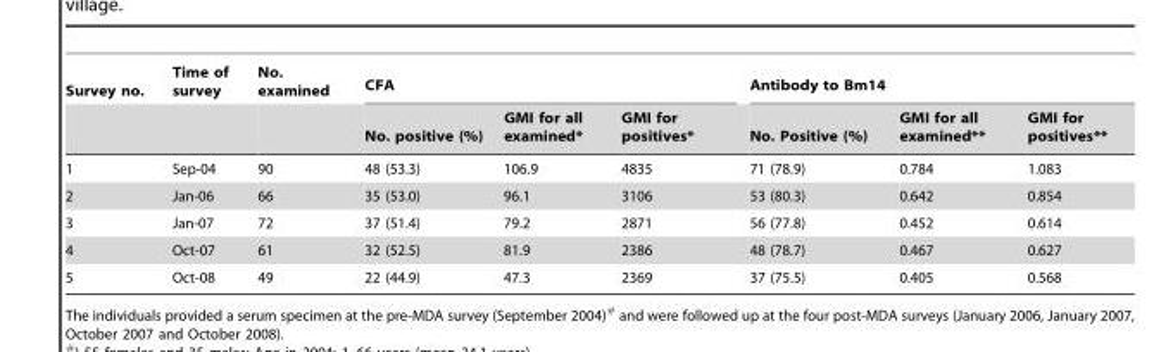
<table><thead><tr><td rowspan="2">Survey no.</td><td rowspan="2">Time of survey</td><td rowspan="2">No. examined</td><td colspan="3">CFA</td><td colspan="3">Antibody to Bm14</td></tr><tr><td>No. positive (%)</td><td>GMI for all examined*</td><td>GMI for positives*</td><td>No. Positive (%)</td><td>GMI for all examined**</td><td>GMI for positives**</td></tr></thead><tbody><tr><td>1</td><td>Sep-04</td><td>90</td><td>48 (53.3)</td><td>106.9</td><td>4835</td><td>71 (78.9)</td><td>0.784</td><td>1.083</td></tr><tr><td>2</td><td>Jan-06</td><td>66</td><td>35 (53.0)</td><td>96.1</td><td>3106</td><td>53 (80.3)</td><td>0.642</td><td>0.854</td></tr><tr><td>3</td><td>Jan-07</td><td>72</td><td>37 (51.4)</td><td>79.2</td><td>2871</td><td>56 (77.8)</td><td>0.452</td><td>0.614</td></tr><tr><td>4</td><td>Oct-07</td><td>61</td><td>32 (52.5)</td><td>81.9</td><td>2386</td><td>48 (78.7)</td><td>0.467</td><td>0.627</td></tr><tr><td>5</td><td>Oct-08</td><td>49</td><td>22 (44.9)</td><td>47.3</td><td>2369</td><td>37 (75.5)</td><td>0.405</td><td>0.568</td></tr></tbody></table>